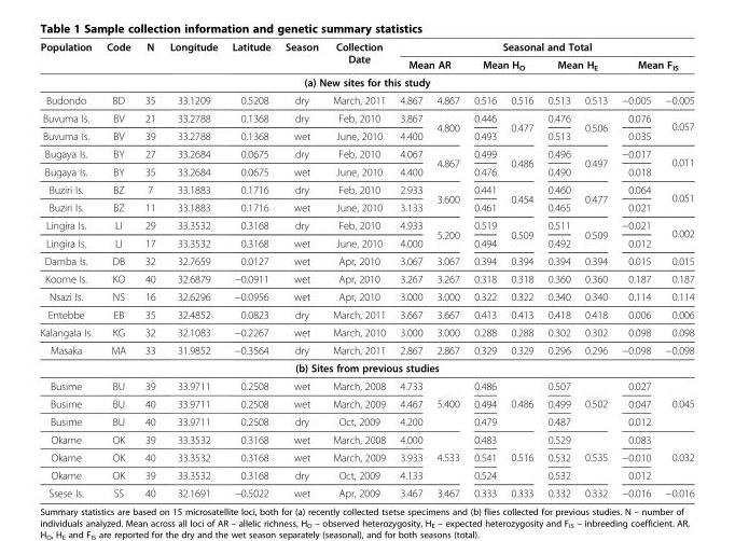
<table><thead><tr><td rowspan="2">Population</td><td rowspan="2">Code</td><td rowspan="2">N</td><td rowspan="2">Longitude</td><td rowspan="2">Latitude</td><td rowspan="2">Season</td><td rowspan="2">Collection Date</td><td colspan="8">Seasonal and Total</td></tr><tr><td colspan="2">Mean AR</td><td colspan="2">Mean H<sub>O</sub></td><td colspan="2">Mean H<sub>E</sub></td><td colspan="2">Mean F<sub>IS</sub></td></tr><tr><td colspan="15">(a) New sites for this study</td></tr><tr><td>Budondo</td><td>BD</td><td>35</td><td>33.1209</td><td>0.5208</td><td>dry</td><td>March, 2011</td><td>4.867</td><td>4.867</td><td>0.516</td><td>0.516</td><td>0.513</td><td>0.513</td><td>−0.005</td><td>−0.005</td></tr></thead><tbody><tr><td>Buvuma Is.</td><td>BV</td><td>21</td><td>33.2788</td><td>0.1368</td><td>dry</td><td>Feb, 2010</td><td>3.867</td><td rowspan="2">4.800</td><td>0.446</td><td rowspan="2">0.477</td><td>0.476</td><td rowspan="2">0.506</td><td>0.076</td><td rowspan="2">0.057</td></tr><tr><td>Buvuma Is.</td><td>BV</td><td>39</td><td>33.2788</td><td>0.1368</td><td>wet</td><td>June, 2010</td><td>4.400</td><td>0.493</td><td>0.513</td><td>0.035</td></tr><tr><td>Bugaya Is.</td><td>BY</td><td>27</td><td>33.2684</td><td>0.0675</td><td>dry</td><td>Feb, 2010</td><td>4.067</td><td rowspan="2">4.867</td><td>0.499</td><td rowspan="2">0.486</td><td>0.496</td><td rowspan="2">0.497</td><td>−0.017</td><td rowspan="2">0.011</td></tr><tr><td>Bugaya Is.</td><td>BY</td><td>35</td><td>33.2684</td><td>0.0675</td><td>wet</td><td>June, 2010</td><td>4.400</td><td>0.476</td><td>0.490</td><td>0.018</td></tr><tr><td>Buziri Is.</td><td>BZ</td><td>7</td><td>33.1883</td><td>0.1716</td><td>dry</td><td>Feb, 2010</td><td>2.933</td><td rowspan="2">3.600</td><td>0.441</td><td rowspan="2">0.454</td><td>0.460</td><td rowspan="2">0.477</td><td>0.064</td><td rowspan="2">0.051</td></tr><tr><td>Buziri Is.</td><td>BZ</td><td>11</td><td>33.1883</td><td>0.1716</td><td>wet</td><td>June, 2010</td><td>3.133</td><td>0.461</td><td>0.465</td><td>0.021</td></tr><tr><td>Lingira Is.</td><td>LI</td><td>29</td><td>33.3532</td><td>0.3168</td><td>dry</td><td>Feb, 2010</td><td>4.933</td><td rowspan="2">5.200</td><td>0.519</td><td rowspan="2">0.509</td><td>0.511</td><td rowspan="2">0.509</td><td>−0.021</td><td rowspan="2">0.002</td></tr><tr><td>Lingira Is.</td><td>LI</td><td>17</td><td>33.3532</td><td>0.3168</td><td>wet</td><td>June, 2010</td><td>4.000</td><td>0.494</td><td>0.492</td><td>0.012</td></tr><tr><td>Damba Is.</td><td>DB</td><td>32</td><td>32.7659</td><td>0.0127</td><td>wet</td><td>Apr, 2010</td><td>3.067</td><td>3.067</td><td>0.394</td><td>0.394</td><td>0.394</td><td>0.394</td><td>0.015</td><td>0.015</td></tr><tr><td>Koome Is.</td><td>KO</td><td>40</td><td>32.6879</td><td>−0.0911</td><td>wet</td><td>Apr, 2010</td><td>3.267</td><td>3.267</td><td>0.318</td><td>0.318</td><td>0.360</td><td>0.360</td><td>0.187</td><td>0.187</td></tr><tr><td>Nsazi Is.</td><td>NS</td><td>16</td><td>32.6296</td><td>−0.0956</td><td>wet</td><td>Apr, 2010</td><td>3.000</td><td>3.000</td><td>0.322</td><td>0.322</td><td>0.340</td><td>0.340</td><td>0.114</td><td>0.114</td></tr><tr><td>Entebbe</td><td>EB</td><td>35</td><td>32.4852</td><td>0.0823</td><td>dry</td><td>March, 2011</td><td>3.667</td><td>3.667</td><td>0.413</td><td>0.413</td><td>0.418</td><td>0.418</td><td>0.006</td><td>0.006</td></tr><tr><td>Kalangala Is.</td><td>KG</td><td>32</td><td>32.1083</td><td>−0.2267</td><td>wet</td><td>March, 2010</td><td>3.000</td><td>3.000</td><td>0.288</td><td>0.288</td><td>0.302</td><td>0.302</td><td>0.098</td><td>0.098</td></tr><tr><td>Masaka</td><td>MA</td><td>33</td><td>31.9852</td><td>−0.3564</td><td>dry</td><td>March, 2011</td><td>2.867</td><td>2.867</td><td>0.329</td><td>0.329</td><td>0.296</td><td>0.296</td><td>−0.098</td><td>−0.098</td></tr><tr><td colspan="15">(b) Sites from previous studies</td></tr><tr><td>Busime</td><td>BU</td><td>39</td><td>33.9711</td><td>0.2508</td><td>wet</td><td>March, 2008</td><td>4.733</td><td rowspan="3">5.400</td><td>0.486</td><td rowspan="3">0.486</td><td>0.507</td><td rowspan="3">0.502</td><td>0.027</td><td></td></tr><tr><td>Busime</td><td>BU</td><td>40</td><td>33.9711</td><td>0.2508</td><td>wet</td><td>March, 2009</td><td>4.467</td><td>0.494</td><td>0.499</td><td>0.047</td><td>0.045</td></tr><tr><td>Busime</td><td>BU</td><td>40</td><td>33.9711</td><td>0.2508</td><td>dry</td><td>Oct, 2009</td><td>4.200</td><td>0.479</td><td>0.487</td><td>0.012</td><td></td></tr><tr><td>Okame</td><td>OK</td><td>39</td><td>33.3532</td><td>0.3168</td><td>wet</td><td>March, 2008</td><td>4.000</td><td rowspan="3">4.533</td><td>0.483</td><td rowspan="3">0.516</td><td>0.529</td><td rowspan="3">0.535</td><td>0.083</td><td rowspan="3">0.032</td></tr><tr><td>Okame</td><td>OK</td><td>40</td><td>33.3532</td><td>0.3168</td><td>wet</td><td>March, 2009</td><td>3.933</td><td>0.541</td><td>0.532</td><td>−0.010</td></tr><tr><td>Okame</td><td>OK</td><td>39</td><td>33.3532</td><td>0.3168</td><td>dry</td><td>Oct, 2009</td><td>4.133</td><td>0.524</td><td>0.532</td><td>0.012</td></tr><tr><td>Ssese Is.</td><td>SS</td><td>40</td><td>32.1691</td><td>−0.5022</td><td>wet</td><td>Apr, 2009</td><td>3.467</td><td>3.467</td><td>0.333</td><td>0.333</td><td>0.332</td><td>0.332</td><td>−0.016</td><td>−0.016</td></tr></tbody></table>